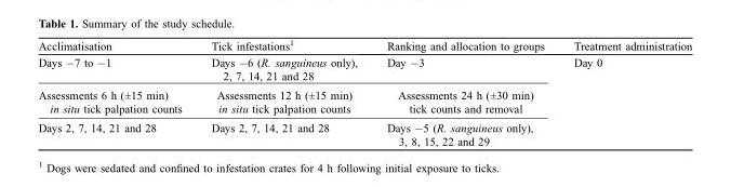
<table><thead><tr><td>Acclimatisation</td><td>Tick infestations<sup>1</sup></td><td>Ranking and allocation to groups</td><td>Treatment administration</td></tr></thead><tbody><tr><td>Days −7 to −1</td><td>Days −6 (R. sanguineus only), 2, 7, 14, 21 and 28</td><td>Day −3</td><td>Day 0</td></tr><tr><td>Assessments 6 h (±15 min) in situ tick palpation counts</td><td>Assessments 12 h (±15 min) in situ tick palpation counts</td><td>Assessments 24 h (±30 min) tick counts and removal</td><td></td></tr><tr><td>Days 2, 7, 14, 21 and 28</td><td>Days 2, 7, 14, 21 and 28</td><td>Days −5 (R. sanguineus only), 3, 8, 15, 22 and 29</td><td></td></tr></tbody></table>